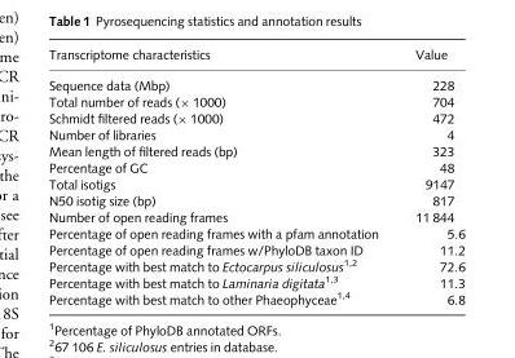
<table><thead><tr><td>Transcriptome characteristics</td><td>Value</td></tr></thead><tbody><tr><td>Sequence data (Mbp)</td><td>228</td></tr><tr><td>Total number of reads (× 1000)</td><td>704</td></tr><tr><td>Schmidt filtered reads (× 1000)</td><td>472</td></tr><tr><td>Number of libraries</td><td>4</td></tr><tr><td>Mean length of filtered reads (bp)</td><td>323</td></tr><tr><td>Percentage of GC</td><td>48</td></tr><tr><td>Total isotigs</td><td>9147</td></tr><tr><td>N50 isotig size (bp)</td><td>817</td></tr><tr><td>Number of open reading frames</td><td>11 844</td></tr><tr><td>Percentage of open reading frames with a pfam annotation</td><td>5.6</td></tr><tr><td>Percentage of open reading frames w/PhyloDB taxon ID</td><td>11.2</td></tr><tr><td>Percentage with best match to Ectocarpus siliculosus<sup>1</sup>,<sup>2</sup></td><td>72.6</td></tr><tr><td>Percentage with best match to Laminaria digitata<sup>1</sup>,<sup>3</sup></td><td>11.3</td></tr><tr><td>Percentage with best match to other Phaeophyceae<sup>1</sup>,<sup>4</sup></td><td>6.8</td></tr></tbody></table>